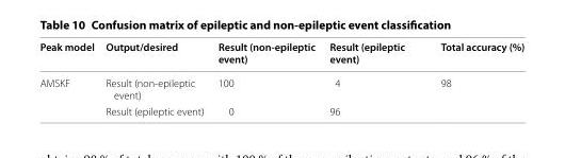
<table><thead><tr><td>Peak model</td><td>Output/desired</td><td>Result (non‑epileptic event)</td><td>Result (epileptic event)</td><td>Total accuracy (%)</td></tr></thead><tbody><tr><td rowspan="2">AMSKF</td><td>Result (non-epileptic event)</td><td>100</td><td>4</td><td>98</td></tr><tr><td>Result (epileptic event)</td><td>0</td><td>96</td><td></td></tr></tbody></table>